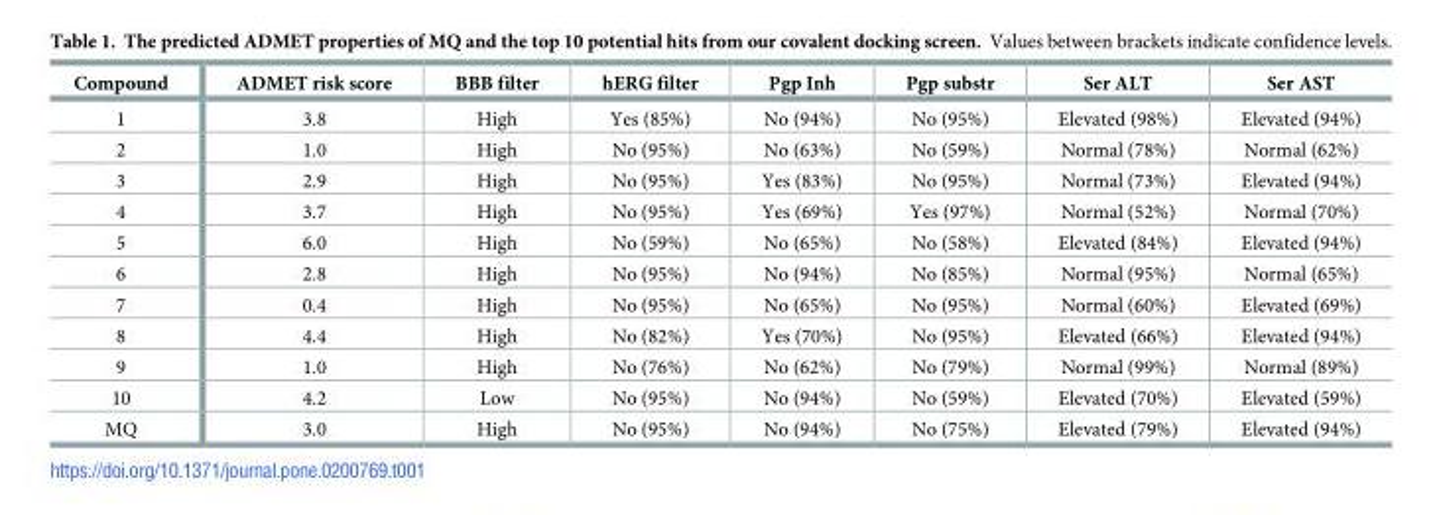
<table><thead><tr><td>Compound</td><td>ADMET risk score</td><td>BBB filter</td><td>hERG filter</td><td>Pgp Inh</td><td>Pgp substr</td><td>Ser ALT</td><td>Ser AST</td></tr></thead><tbody><tr><td>1</td><td>3.8</td><td>High</td><td>Yes (85%)</td><td>No (94%)</td><td>No (95%)</td><td>Elevated (98%)</td><td>Elevated (94%)</td></tr><tr><td>2</td><td>1.0</td><td>High</td><td>No (95%)</td><td>No (63%)</td><td>No (59%)</td><td>Normal (78%)</td><td>Normal (62%)</td></tr><tr><td>3</td><td>2.9</td><td>High</td><td>No (95%)</td><td>Yes (83%)</td><td>No (95%)</td><td>Normal (73%)</td><td>Elevated (94%)</td></tr><tr><td>4</td><td>3.7</td><td>High</td><td>No (95%)</td><td>Yes (69%)</td><td>Yes (97%)</td><td>Normal (52%)</td><td>Normal (70%)</td></tr><tr><td>5</td><td>6.0</td><td>High</td><td>No (59%)</td><td>No (65%)</td><td>No (58%)</td><td>Elevated (84%)</td><td>Elevated (94%)</td></tr><tr><td>6</td><td>2.8</td><td>High</td><td>No (95%)</td><td>No (94%)</td><td>No (85%)</td><td>Normal (95%)</td><td>Normal (65%)</td></tr><tr><td>7</td><td>0.4</td><td>High</td><td>No (95%)</td><td>No (65%)</td><td>No (95%)</td><td>Normal (60%)</td><td>Elevated (69%)</td></tr><tr><td>8</td><td>4.4</td><td>High</td><td>No (82%)</td><td>Yes (70%)</td><td>No (95%)</td><td>Elevated (66%)</td><td>Elevated (94%)</td></tr><tr><td>9</td><td>1.0</td><td>High</td><td>No (76%)</td><td>No (62%)</td><td>No (79%)</td><td>Normal (99%)</td><td>Normal (89%)</td></tr><tr><td>10</td><td>4.2</td><td>Low</td><td>No (95%)</td><td>No (94%)</td><td>No (59%)</td><td>Elevated (70%)</td><td>Elevated (59%)</td></tr><tr><td>MQ</td><td>3.0</td><td>High</td><td>No (95%)</td><td>No (94%)</td><td>No (75%)</td><td>Elevated (79%)</td><td>Elevated (94%)</td></tr></tbody></table>